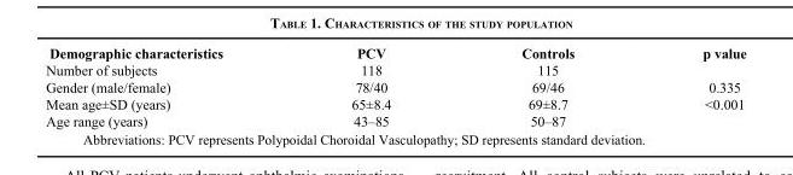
<table><thead><tr><td>Demographic characteristics</td><td>PCV</td><td>Controls</td><td>p value</td></tr></thead><tbody><tr><td>Number of subjects</td><td>118</td><td>115</td><td></td></tr><tr><td>Gender (male/female)</td><td>78/40</td><td>69/46</td><td>0.335</td></tr><tr><td>Mean age±SD (years)</td><td>65±8.4</td><td>69±8.7</td><td>&lt;0.001</td></tr><tr><td>Age range (years)</td><td>43–85</td><td>50–87</td><td></td></tr></tbody></table>